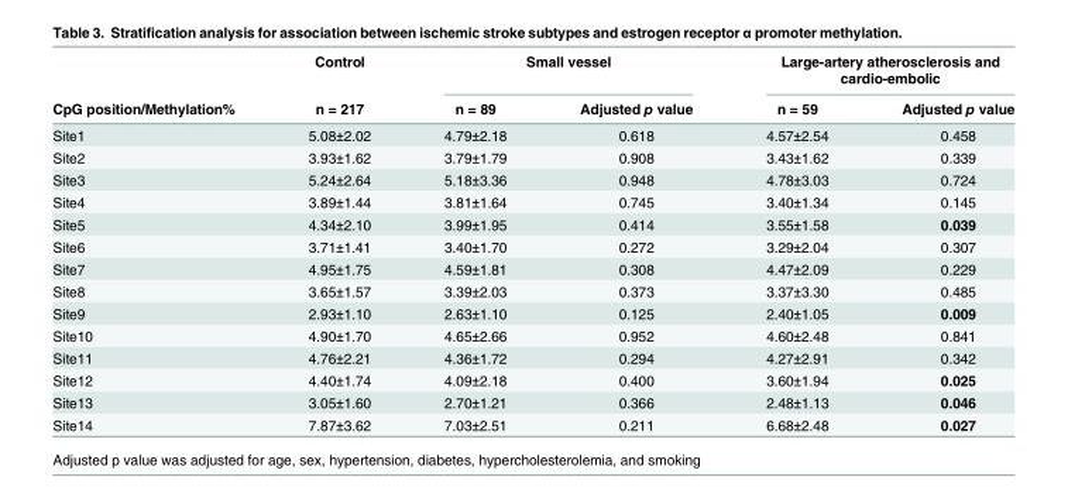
<table><thead><tr><td rowspan="2">CpG position/Methylation%</td><td rowspan="2">Control n = 217</td><td colspan="2">Small vessel</td><td colspan="2">Large-artery atherosclerosis and cardio-embolic</td></tr><tr><td>n = 89</td><td>Adjusted p value</td><td>n = 59</td><td>Adjusted p value</td></tr></thead><tbody><tr><td>Site1</td><td>5.08±2.02</td><td>4.79±2.18</td><td>0.618</td><td>4.57±2.54</td><td>0.458</td></tr><tr><td>Site2</td><td>3.93±1.62</td><td>3.79±1.79</td><td>0.908</td><td>3.43±1.62</td><td>0.339</td></tr><tr><td>Site3</td><td>5.24±2.64</td><td>5.18±3.36</td><td>0.948</td><td>4.78±3.03</td><td>0.724</td></tr><tr><td>Site4</td><td>3.89±1.44</td><td>3.81±1.64</td><td>0.745</td><td>3.40±1.34</td><td>0.145</td></tr><tr><td>Site5</td><td>4.34±2.10</td><td>3.99±1.95</td><td>0.414</td><td>3.55±1.58</td><td>0.039</td></tr><tr><td>Site6</td><td>3.71±1.41</td><td>3.40±1.70</td><td>0.272</td><td>3.29±2.04</td><td>0.307</td></tr><tr><td>Site7</td><td>4.95±1.75</td><td>4.59±1.81</td><td>0.308</td><td>4.47±2.09</td><td>0.229</td></tr><tr><td>Site8</td><td>3.65±1.57</td><td>3.39±2.03</td><td>0.373</td><td>3.37±3.30</td><td>0.485</td></tr><tr><td>Site9</td><td>2.93±1.10</td><td>2.63±1.10</td><td>0.125</td><td>2.40±1.05</td><td>0.009</td></tr><tr><td>Site10</td><td>4.90±1.70</td><td>4.65±2.66</td><td>0.952</td><td>4.60±2.48</td><td>0.841</td></tr><tr><td>Site11</td><td>4.76±2.21</td><td>4.36±1.72</td><td>0.294</td><td>4.27±2.91</td><td>0.342</td></tr><tr><td>Site12</td><td>4.40±1.74</td><td>4.09±2.18</td><td>0.400</td><td>3.60±1.94</td><td>0.025</td></tr><tr><td>Site13</td><td>3.05±1.60</td><td>2.70±1.21</td><td>0.366</td><td>2.48±1.13</td><td>0.046</td></tr><tr><td>Site14</td><td>7.87±3.62</td><td>7.03±2.51</td><td>0.211</td><td>6.68±2.48</td><td>0.027</td></tr></tbody></table>